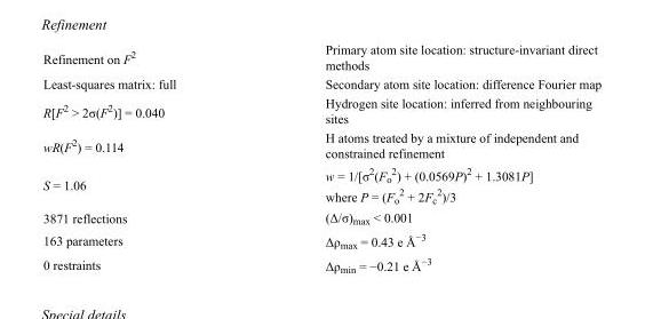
<table><tbody><tr><td>Refinement on F<sup>2</sup></td><td>Primary atom site location: structure-invariant direct methods</td></tr><tr><td>Least-squares matrix: full</td><td>Secondary atom site location: difference Fourier map</td></tr><tr><td>R[F<sup>2</sup> &gt; 2σ(F<sup>2</sup>)] = 0.040</td><td>Hydrogen site location: inferred from neighbouring sites</td></tr><tr><td>wR(F<sup>2</sup>) = 0.114</td><td>H atoms treated by a mixture of independent and constrained refinement</td></tr><tr><td>S = 1.06</td><td>w = 1/[σ<sup>2</sup>(F<sub>o</sub> <sup>2</sup>) + (0.0569P)<sup>2</sup> + 1.3081P] where P = (F<sub>o</sub> <sup>2</sup> + 2F<sub>c</sub> <sup>2</sup>)/3</td></tr><tr><td>3871 reflections</td><td>(Δ/σ)<sub>max</sub> &lt; 0.001</td></tr><tr><td>163 parameters</td><td>Δρ<sub>max</sub> = 0.43 e Å<sup>−3</sup></td></tr><tr><td>0 restraints</td><td>Δρ<sub>min</sub> = −0.21 e Å<sup>−3</sup></td></tr></tbody></table>